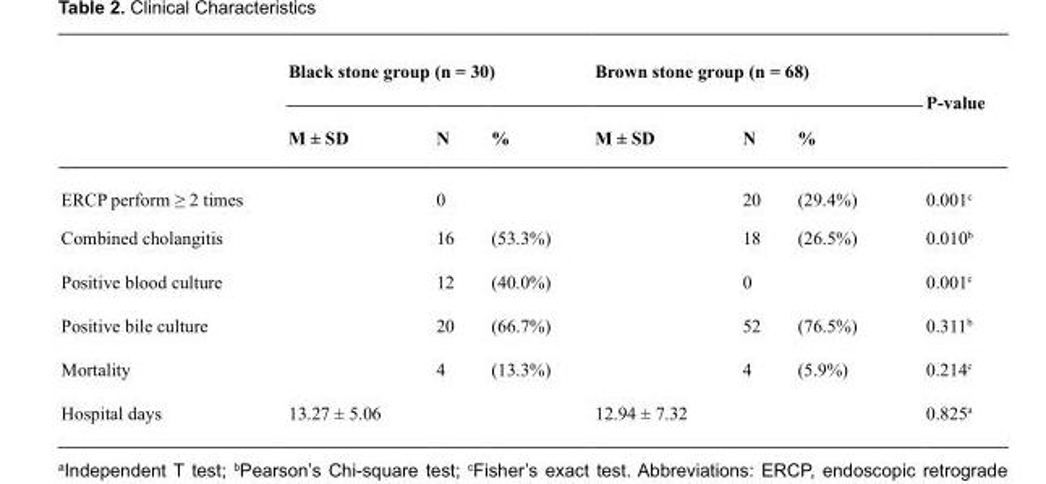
<table><thead><tr><td rowspan="2"></td><td colspan="3">Black stone group (n = 30)</td><td colspan="3">Brown stone group (n = 68)</td><td rowspan="2">P-value</td></tr><tr><td>M ± SD</td><td>N</td><td>%</td><td>M ± SD</td><td>N</td><td>%</td></tr></thead><tbody><tr><td>ERCP perform ≥ 2 times</td><td></td><td>0</td><td></td><td></td><td>20</td><td>(29.4%)</td><td>0.001<sup>c</sup></td></tr><tr><td>Combined cholangitis</td><td></td><td>16</td><td>(53.3%)</td><td></td><td>18</td><td>(26.5%)</td><td>0.010<sup>b</sup></td></tr><tr><td>Positive blood culture</td><td></td><td>12</td><td>(40.0%)</td><td></td><td>0</td><td></td><td>0.001<sup>c</sup></td></tr><tr><td>Positive bile culture</td><td></td><td>20</td><td>(66.7%)</td><td></td><td>52</td><td>(76.5%)</td><td>0.311<sup>b</sup></td></tr><tr><td>Mortality</td><td></td><td>4</td><td>(13.3%)</td><td></td><td>4</td><td>(5.9%)</td><td>0.214<sup>c</sup></td></tr><tr><td>Hospital days</td><td>13.27 ± 5.06</td><td></td><td></td><td>12.94 ± 7.32</td><td></td><td></td><td>0.825<sup>a</sup></td></tr></tbody></table>